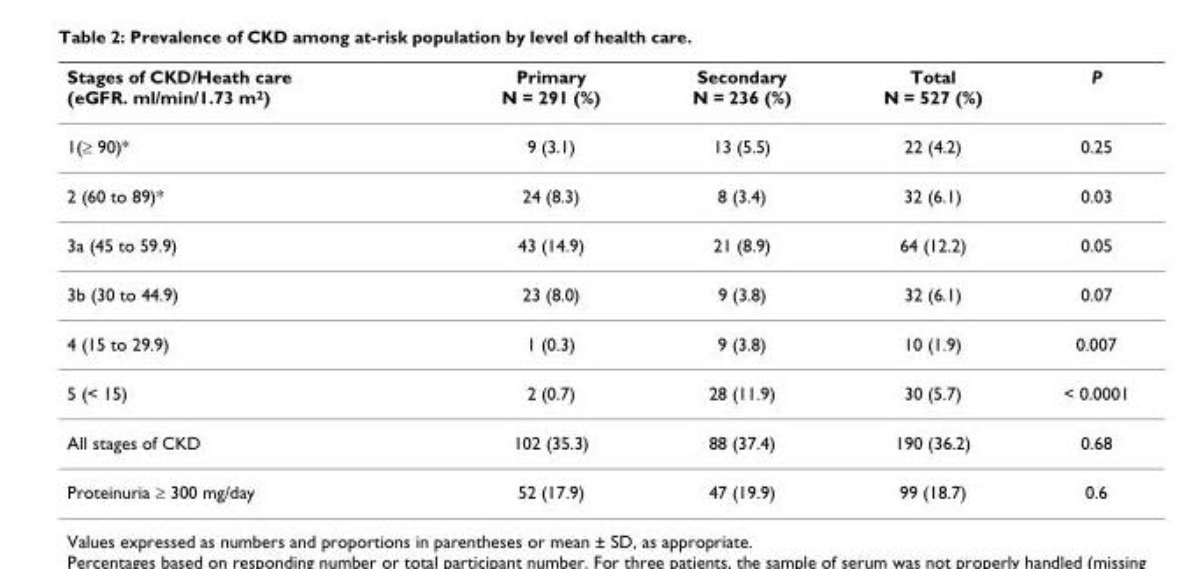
<table><thead><tr><td>Stages of CKD/Heath care (eGFR. ml/min/1.73 m<sup>2</sup>)</td><td>Primary N = 291 (%)</td><td>Secondary N = 236 (%)</td><td>Total N = 527 (%)</td><td>P</td></tr></thead><tbody><tr><td>1(≥ 90)*</td><td>9 (3.1)</td><td>13 (5.5)</td><td>22 (4.2)</td><td>0.25</td></tr><tr><td>2 (60 to 89)*</td><td>24 (8.3)</td><td>8 (3.4)</td><td>32 (6.1)</td><td>0.03</td></tr><tr><td>3a (45 to 59.9)</td><td>43 (14.9)</td><td>21 (8.9)</td><td>64 (12.2)</td><td>0.05</td></tr><tr><td>3b (30 to 44.9)</td><td>23 (8.0)</td><td>9 (3.8)</td><td>32 (6.1)</td><td>0.07</td></tr><tr><td>4 (15 to 29.9)</td><td>1 (0.3)</td><td>9 (3.8)</td><td>10 (1.9)</td><td>0.007</td></tr><tr><td>5 (&lt; 15)</td><td>2 (0.7)</td><td>28 (11.9)</td><td>30 (5.7)</td><td>&lt; 0.0001</td></tr><tr><td>All stages of CKD</td><td>102 (35.3)</td><td>88 (37.4)</td><td>190 (36.2)</td><td>0.68</td></tr><tr><td>Proteinuria ≥ 300 mg/day</td><td>52 (17.9)</td><td>47 (19.9)</td><td>99 (18.7)</td><td>0.6</td></tr></tbody></table>